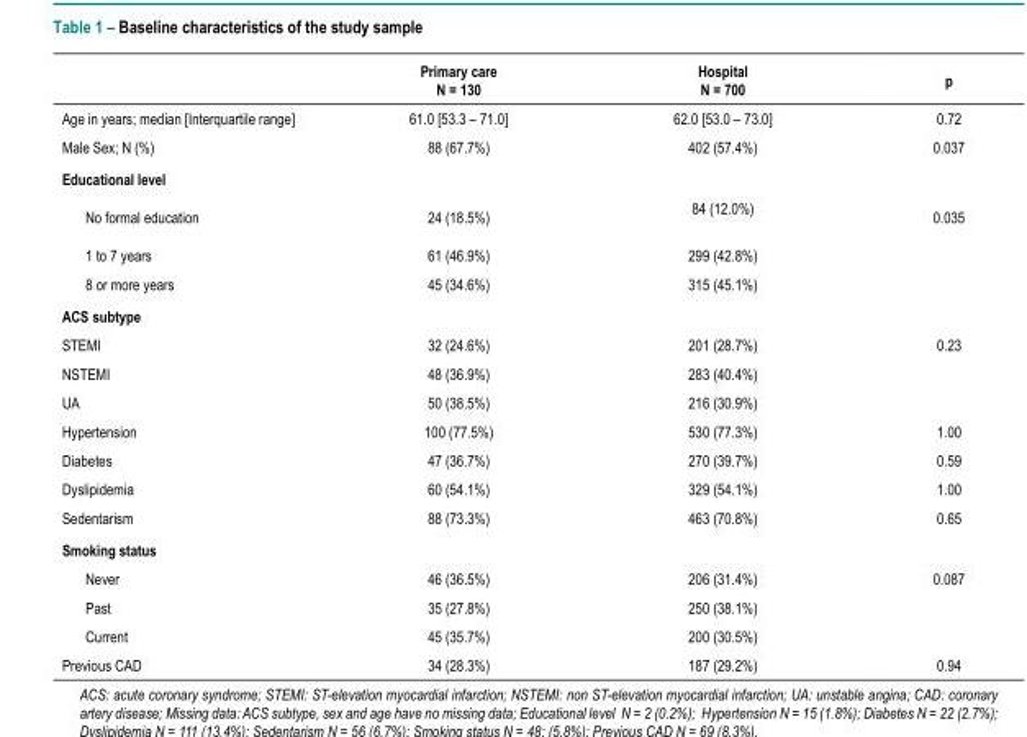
<table><thead><tr><td></td><td>Primary care N = 130</td><td>Hospital N = 700</td><td>p</td></tr></thead><tbody><tr><td>Age in years; median [Interquartile range]</td><td>61.0 [53.3 – 71.0]</td><td>62.0 [53.0 – 73.0]</td><td>0.72</td></tr><tr><td>Male Sex; N (%)</td><td>88 (67.7%)</td><td>402 (57.4%)</td><td>0.037</td></tr><tr><td colspan="4">Educational level</td></tr><tr><td>No formal education</td><td>24 (18.5%)</td><td>84 (12.0%)</td><td>0.035</td></tr><tr><td>1 to 7 years</td><td>61 (46.9%)</td><td>299 (42.8%)</td><td></td></tr><tr><td>8 or more years</td><td>45 (34.6%)</td><td>315 (45.1%)</td><td></td></tr><tr><td colspan="4">ACS subtype</td></tr><tr><td>STEMI</td><td>32 (24.6%)</td><td>201 (28.7%)</td><td>0.23</td></tr><tr><td>NSTEMI</td><td>48 (36.9%)</td><td>283 (40.4%)</td><td></td></tr><tr><td>UA</td><td>50 (38.5%)</td><td>216 (30.9%)</td><td></td></tr><tr><td>Hypertension</td><td>100 (77.5%)</td><td>530 (77.3%)</td><td>1.00</td></tr><tr><td>Diabetes</td><td>47 (36.7%)</td><td>270 (39.7%)</td><td>0.59</td></tr><tr><td>Dyslipidemia</td><td>60 (54.1%)</td><td>329 (54.1%)</td><td>1.00</td></tr><tr><td>Sedentarism</td><td>88 (73.3%)</td><td>463 (70.8%)</td><td>0.65</td></tr><tr><td colspan="4">Smoking status</td></tr><tr><td>Never</td><td>46 (36.5%)</td><td>206 (31.4%)</td><td>0.087</td></tr><tr><td>Past</td><td>35 (27.8%)</td><td>250 (38.1%)</td><td></td></tr><tr><td>Current</td><td>45 (35.7%)</td><td>200 (30.5%)</td><td></td></tr><tr><td>Previous CAD</td><td>34 (28.3%)</td><td>187 (29.2%)</td><td>0.94</td></tr></tbody></table>